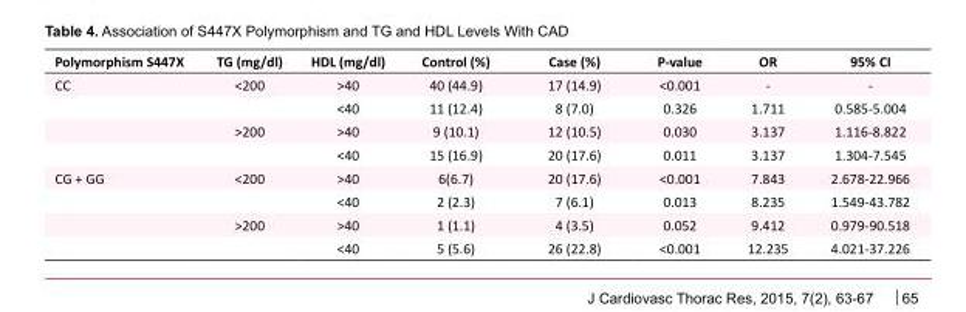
<table><tbody><tr><td>Polymorphism S447X</td><td>TG (mg/dl)</td><td>HDL (mg/dl)</td><td>Control (%)</td><td>Case (%)</td><td>P-value</td><td>OR</td><td>95% CI</td></tr><tr><td rowspan="4">CC</td><td>&lt;200</td><td>&gt;40</td><td>40 (44.9)</td><td>17 (14.9)</td><td>&lt;0.001</td><td>-</td><td>-</td></tr><tr><td></td><td>&lt;40</td><td>11 (12.4)</td><td>8 (7.0)</td><td>0.326</td><td>1.711</td><td>0.585-5.004</td></tr><tr><td>&gt;200</td><td>&gt;40</td><td>9 (10.1)</td><td>12 (10.5)</td><td>0.030</td><td>3.137</td><td>1.116-8.822</td></tr><tr><td></td><td>&lt;40</td><td>15 (16.9)</td><td>20 (17.6)</td><td>0.011</td><td>3.137</td><td>1.304-7.545</td></tr><tr><td rowspan="4">CG + GG</td><td>&lt;200</td><td>&gt;40</td><td>6(6.7)</td><td>20 (17.6)</td><td>&lt;0.001</td><td>7.843</td><td>2.678-22.966</td></tr><tr><td></td><td>&lt;40</td><td>2 (2.3)</td><td>7 (6.1)</td><td>0.013</td><td>8.235</td><td>1.549-43.782</td></tr><tr><td>&gt;200</td><td>&gt;40</td><td>1 (1.1)</td><td>4 (3.5)</td><td>0.052</td><td>9.412</td><td>0.979-90.518</td></tr><tr><td></td><td>&lt;40</td><td>5 (5.6)</td><td>26 (22.8)</td><td>&lt;0.001</td><td>12.235</td><td>4.021-37.226</td></tr></tbody></table>